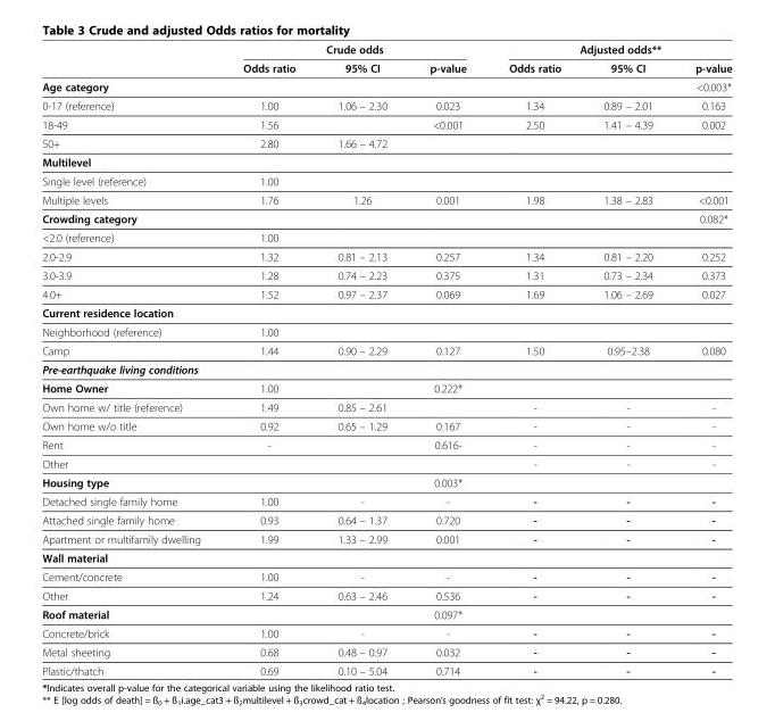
<table><thead><tr><td rowspan="2"></td><td colspan="3">Crude odds</td><td colspan="3">Adjusted odds**</td></tr><tr><td>Odds ratio</td><td>95% CI</td><td>p-value</td><td>Odds ratio</td><td>95% CI</td><td>p-value</td></tr></thead><tbody><tr><td>Age category</td><td></td><td></td><td></td><td></td><td></td><td>&lt;0.003*</td></tr><tr><td>0-17 (reference)</td><td>1.00</td><td>1.06 – 2.30</td><td>0.023</td><td>1.34</td><td>0.89 – 2.01</td><td>0.163</td></tr><tr><td>18-49</td><td>1.56</td><td></td><td>&lt;0.001</td><td>2.50</td><td>1.41 – 4.39</td><td>0.002</td></tr><tr><td>50+</td><td>2.80</td><td>1.66 – 4.72</td><td></td><td></td><td></td><td></td></tr><tr><td colspan="7">Multilevel</td></tr><tr><td>Single level (reference)</td><td>1.00</td><td></td><td></td><td></td><td></td><td></td></tr><tr><td>Multiple levels</td><td>1.76</td><td>1.26</td><td>0.001</td><td>1.98</td><td>1.38 – 2.83</td><td>&lt;0.001</td></tr><tr><td>Crowding category</td><td></td><td></td><td></td><td></td><td></td><td>0.082*</td></tr><tr><td>&lt;2.0 (reference)</td><td>1.00</td><td></td><td></td><td></td><td></td><td></td></tr><tr><td>2.0-2.9</td><td>1.32</td><td>0.81 – 2.13</td><td>0.257</td><td>1.34</td><td>0.81 – 2.20</td><td>0.252</td></tr><tr><td>3.0-3.9</td><td>1.28</td><td>0.74 – 2.23</td><td>0.375</td><td>1.31</td><td>0.73 – 2.34</td><td>0.373</td></tr><tr><td>4.0+</td><td>1.52</td><td>0.97 – 2.37</td><td>0.069</td><td>1.69</td><td>1.06 – 2.69</td><td>0.027</td></tr><tr><td colspan="7">Current residence location</td></tr><tr><td>Neighborhood (reference)</td><td>1.00</td><td></td><td></td><td></td><td></td><td></td></tr><tr><td>Camp</td><td>1.44</td><td>0.90 – 2.29</td><td>0.127</td><td>1.50</td><td>0.95–2.38</td><td>0.080</td></tr><tr><td colspan="7">Pre-earthquake living conditions</td></tr><tr><td>Home Owner</td><td>1.00</td><td></td><td>0.222*</td><td></td><td></td><td></td></tr><tr><td>Own home w/ title (reference)</td><td>1.49</td><td>0.85 – 2.61</td><td></td><td>-</td><td>-</td><td>-</td></tr><tr><td>Own home w/o title</td><td>0.92</td><td>0.65 – 1.29</td><td>0.167</td><td>-</td><td>-</td><td>-</td></tr><tr><td>Rent</td><td>-</td><td></td><td>0.616-</td><td>-</td><td>-</td><td>-</td></tr><tr><td>Other</td><td></td><td></td><td></td><td>-</td><td>-</td><td>-</td></tr><tr><td>Housing type</td><td></td><td></td><td>0.003*</td><td></td><td></td><td></td></tr><tr><td>Detached single family home</td><td>1.00</td><td>-</td><td>-</td><td>-</td><td>-</td><td>-</td></tr><tr><td>Attached single family home</td><td>0.93</td><td>0.64 – 1.37</td><td>0.720</td><td>-</td><td>-</td><td>-</td></tr><tr><td>Apartment or multifamily dwelling</td><td>1.99</td><td>1.33 – 2.99</td><td>0.001</td><td>-</td><td>-</td><td>-</td></tr><tr><td colspan="7">Wall material</td></tr><tr><td>Cement/concrete</td><td>1.00</td><td>-</td><td>-</td><td>-</td><td>-</td><td>-</td></tr><tr><td>Other</td><td>1.24</td><td>0.63 – 2.46</td><td>0.536</td><td>-</td><td>-</td><td>-</td></tr><tr><td>Roof material</td><td></td><td></td><td>0.097*</td><td></td><td></td><td></td></tr><tr><td>Concrete/brick</td><td>1.00</td><td>-</td><td>-</td><td>-</td><td>-</td><td>-</td></tr><tr><td>Metal sheeting</td><td>0.68</td><td>0.48 – 0.97</td><td>0.032</td><td>-</td><td>-</td><td>-</td></tr><tr><td>Plastic/thatch</td><td>0.69</td><td>0.10 – 5.04</td><td>0.714</td><td>-</td><td>-</td><td>-</td></tr></tbody></table>